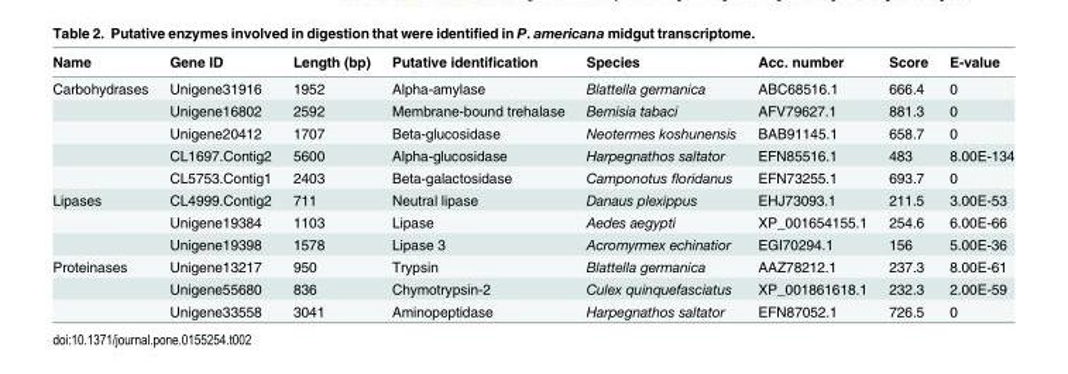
<table><thead><tr><td>Name</td><td>Gene ID</td><td>Length (bp)</td><td>Putative identification</td><td>Species</td><td>Acc. number</td><td>Score</td><td>E-value</td></tr></thead><tbody><tr><td rowspan="5">Carbohydrases</td><td>Unigene31916</td><td>1952</td><td>Alpha-amylase</td><td>Blattella germanica</td><td>ABC68516.1</td><td>666.4</td><td>0</td></tr><tr><td>Unigene16802</td><td>2592</td><td>Membrane-bound trehalase</td><td>Bemisia tabaci</td><td>AFV79627.1</td><td>881.3</td><td>0</td></tr><tr><td>Unigene20412</td><td>1707</td><td>Beta-glucosidase</td><td>Neotermes koshunensis</td><td>BAB91145.1</td><td>658.7</td><td>0</td></tr><tr><td>CL1697.Contig2</td><td>5600</td><td>Alpha-glucosidase</td><td>Harpegnathos saltator</td><td>EFN85516.1</td><td>483</td><td>8.00E-134</td></tr><tr><td>CL5753.Contig1</td><td>2403</td><td>Beta-galactosidase</td><td>Camponotus floridanus</td><td>EFN73255.1</td><td>693.7</td><td>0</td></tr><tr><td rowspan="3">Lipases</td><td>CL4999.Contig2</td><td>711</td><td>Neutral lipase</td><td>Danaus plexippus</td><td>EHJ73093.1</td><td>211.5</td><td>3.00E-53</td></tr><tr><td>Unigene19384</td><td>1103</td><td>Lipase</td><td>Aedes aegypti</td><td>XP_001654155.1</td><td>254.6</td><td>6.00E-66</td></tr><tr><td>Unigene19398</td><td>1578</td><td>Lipase 3</td><td>Acromyrmex echinatior</td><td>EGI70294.1</td><td>156</td><td>5.00E-36</td></tr><tr><td rowspan="3">Proteinases</td><td>Unigene13217</td><td>950</td><td>Trypsin</td><td>Blattella germanica</td><td>AAZ78212.1</td><td>237.3</td><td>8.00E-61</td></tr><tr><td>Unigene55680</td><td>836</td><td>Chymotrypsin-2</td><td>Culex quinquefasciatus</td><td>XP_001861618.1</td><td>232.3</td><td>2.00E-59</td></tr><tr><td>Unigene33558</td><td>3041</td><td>Aminopeptidase</td><td>Harpegnathos saltator</td><td>EFN87052.1</td><td>726.5</td><td>0</td></tr></tbody></table>